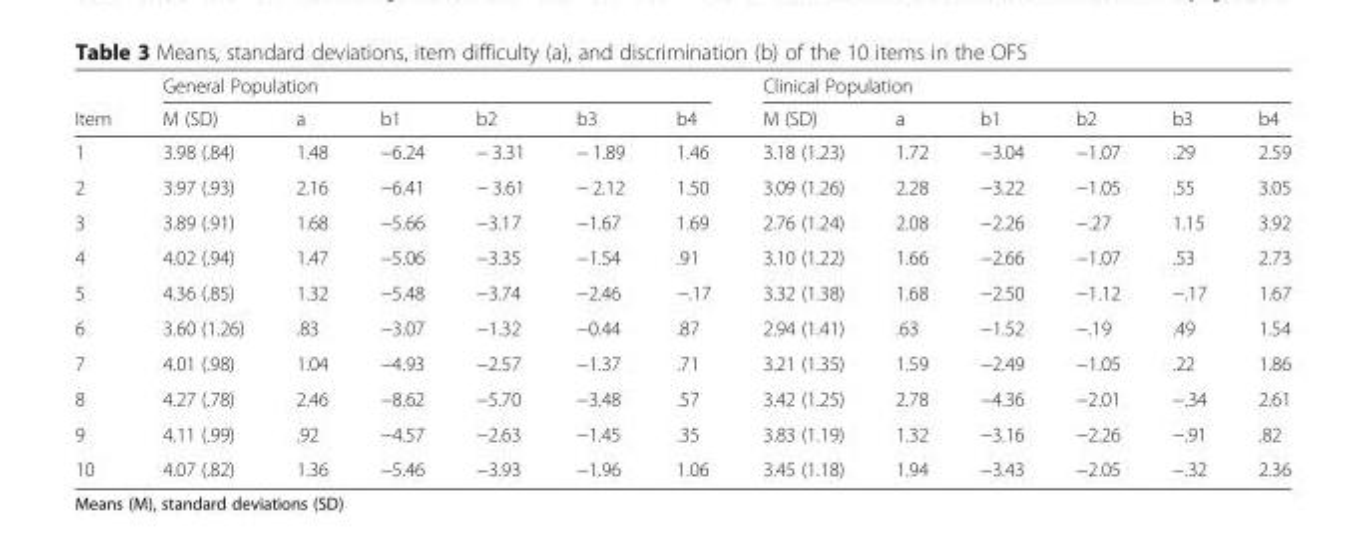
<table><thead><tr><td rowspan="2">Item</td><td colspan="6">General Population</td><td colspan="6">Clinical Population</td></tr><tr><td>M (SD)</td><td>a</td><td>b1</td><td>b2</td><td>b3</td><td>b4</td><td>M (SD)</td><td>a</td><td>b1</td><td>b2</td><td>b3</td><td>b4</td></tr></thead><tbody><tr><td>1</td><td>3.98 (.84)</td><td>1.48</td><td>−6.24</td><td>− 3.31</td><td>− 1.89</td><td>1.46</td><td>3.18 (1.23)</td><td>1.72</td><td>−3.04</td><td>−1.07</td><td>.29</td><td>2.59</td></tr><tr><td>2</td><td>3.97 (.93)</td><td>2.16</td><td>−6.41</td><td>− 3.61</td><td>− 2.12</td><td>1.50</td><td>3.09 (1.26)</td><td>2.28</td><td>−3.22</td><td>−1.05</td><td>.55</td><td>3.05</td></tr><tr><td>3</td><td>3.89 (.91)</td><td>1.68</td><td>−5.66</td><td>−3.17</td><td>−1.67</td><td>1.69</td><td>2.76 (1.24)</td><td>2.08</td><td>−2.26</td><td>−.27</td><td>1.15</td><td>3.92</td></tr><tr><td>4</td><td>4.02 (.94)</td><td>1.47</td><td>−5.06</td><td>−3.35</td><td>−1.54</td><td>.91</td><td>3.10 (1.22)</td><td>1.66</td><td>−2.66</td><td>−1.07</td><td>.53</td><td>2.73</td></tr><tr><td>5</td><td>4.36 (.85)</td><td>1.32</td><td>−5.48</td><td>−3.74</td><td>−2.46</td><td>−.17</td><td>3.32 (1.38)</td><td>1.68</td><td>−2.50</td><td>−1.12</td><td>−.17</td><td>1.67</td></tr><tr><td>6</td><td>3.60 (1.26)</td><td>.83</td><td>−3.07</td><td>−1.32</td><td>−0.44</td><td>.87</td><td>2.94 (1.41)</td><td>.63</td><td>−1.52</td><td>−.19</td><td>.49</td><td>1.54</td></tr><tr><td>7</td><td>4.01 (.98)</td><td>1.04</td><td>−4.93</td><td>−2.57</td><td>−1.37</td><td>.71</td><td>3.21 (1.35)</td><td>1.59</td><td>−2.49</td><td>−1.05</td><td>.22</td><td>1.86</td></tr><tr><td>8</td><td>4.27 (.78)</td><td>2.46</td><td>−8.62</td><td>−5.70</td><td>−3.48</td><td>.57</td><td>3.42 (1.25)</td><td>2.78</td><td>−4.36</td><td>−2.01</td><td>−.34</td><td>2.61</td></tr><tr><td>9</td><td>4.11 (.99)</td><td>.92</td><td>−4.57</td><td>−2.63</td><td>−1.45</td><td>.35</td><td>3.83 (1.19)</td><td>1.32</td><td>−3.16</td><td>−2.26</td><td>−.91</td><td>.82</td></tr><tr><td>10</td><td>4.07 (.82)</td><td>1.36</td><td>−5.46</td><td>−3.93</td><td>−1.96</td><td>1.06</td><td>3.45 (1.18)</td><td>1.94</td><td>−3.43</td><td>−2.05</td><td>−.32</td><td>2.36</td></tr></tbody></table>